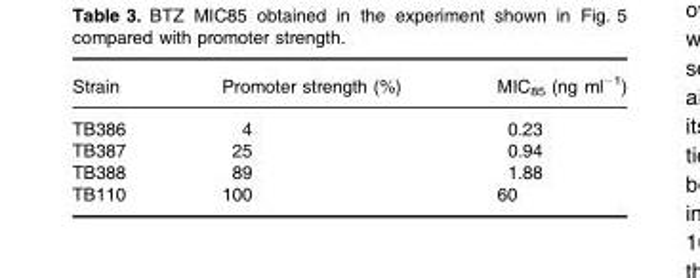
<table><thead><tr><td>Strain</td><td>Promoter strength (%)</td><td>MIC<sub>85</sub> (ng ml<sup>−1</sup>)</td></tr></thead><tbody><tr><td>TB386</td><td>4</td><td>0.23</td></tr><tr><td>TB387</td><td>25</td><td>0.94</td></tr><tr><td>TB388</td><td>89</td><td>1.88</td></tr><tr><td>TB110</td><td>100</td><td>60</td></tr></tbody></table>